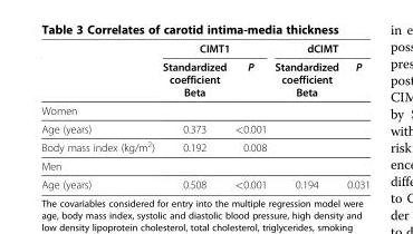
<table><thead><tr><td rowspan="2"></td><td colspan="2">CIMT1</td><td colspan="2">dCIMT</td></tr><tr><td>Standardized coefficient Beta</td><td>P</td><td>Standardized coefficient Beta</td><td>P</td></tr></thead><tbody><tr><td colspan="5">Women</td></tr><tr><td>Age (years)</td><td>0.373</td><td>&lt;0.001</td><td></td><td></td></tr><tr><td>Body mass index (kg/m<sup>2</sup>)</td><td>0.192</td><td>0.008</td><td></td><td></td></tr><tr><td colspan="5">Men</td></tr><tr><td>Age (years)</td><td>0.508</td><td>&lt;0.001</td><td>0.194</td><td>0.031</td></tr></tbody></table>